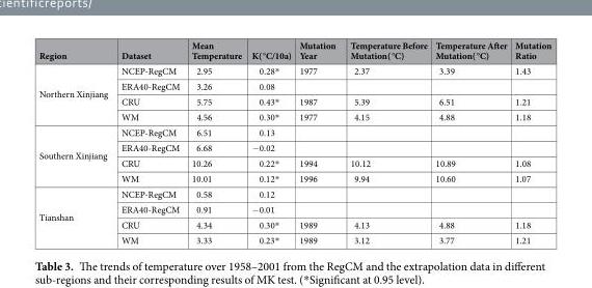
<table><thead><tr><td>Region</td><td>Dataset</td><td>Mean Temperature</td><td>K( °C/10a)</td><td>Mutation Year</td><td>Temperature Before Mutation( °C)</td><td>Temperature After Mutation( °C)</td><td>Mutation Ratio</td></tr></thead><tbody><tr><td rowspan="4">Northern Xinjiang</td><td>NCEP-RegCM</td><td>2.95</td><td>0.28*</td><td>1977</td><td>2.37</td><td>3.39</td><td>1.43</td></tr><tr><td>ERA40-RegCM</td><td>3.26</td><td>0.08</td><td></td><td></td><td></td><td></td></tr><tr><td>CRU</td><td>5.75</td><td>0.43*</td><td>1987</td><td>5.39</td><td>6.51</td><td>1.21</td></tr><tr><td>WM</td><td>4.56</td><td>0.30*</td><td>1977</td><td>4.15</td><td>4.88</td><td>1.18</td></tr><tr><td rowspan="4">Southern Xinjiang</td><td>NCEP-RegCM</td><td>6.51</td><td>0.13</td><td></td><td></td><td></td><td></td></tr><tr><td>ERA40-RegCM</td><td>6.68</td><td>−0.02</td><td></td><td></td><td></td><td></td></tr><tr><td>CRU</td><td>10.26</td><td>0.22*</td><td>1994</td><td>10.12</td><td>10.89</td><td>1.08</td></tr><tr><td>WM</td><td>10.01</td><td>0.12*</td><td>1996</td><td>9.94</td><td>10.60</td><td>1.07</td></tr><tr><td rowspan="4">Tianshan</td><td>NCEP-RegCM</td><td>0.58</td><td>0.12</td><td></td><td></td><td></td><td></td></tr><tr><td>ERA40-RegCM</td><td>0.91</td><td>−0.01</td><td></td><td></td><td></td><td></td></tr><tr><td>CRU</td><td>4.34</td><td>0.30*</td><td>1989</td><td>4.13</td><td>4.88</td><td>1.18</td></tr><tr><td>WM</td><td>3.33</td><td>0.23*</td><td>1989</td><td>3.12</td><td>3.77</td><td>1.21</td></tr></tbody></table>